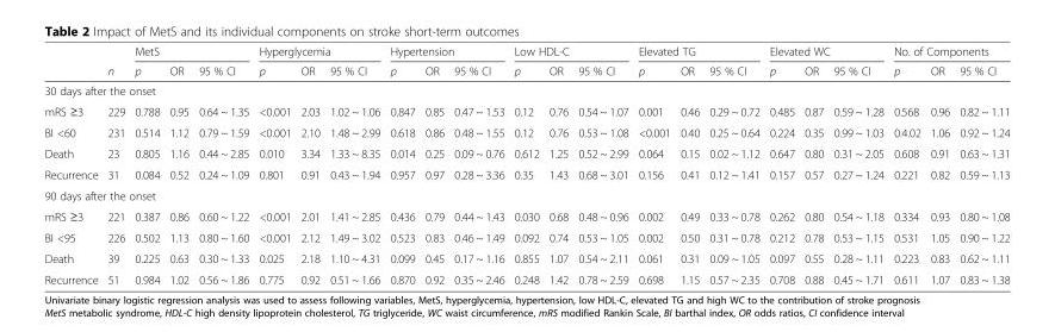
<table><thead><tr><td rowspan="2"></td><td rowspan="2">n</td><td colspan="3">MetS</td><td colspan="3">Hyperglycemia</td><td colspan="3">Hypertension</td><td colspan="3">Low HDL-C</td><td colspan="3">Elevated TG</td><td colspan="3">Elevated WC</td><td colspan="3">No. of Components</td></tr><tr><td>p</td><td>OR</td><td>95 % CI</td><td>p</td><td>OR</td><td>95 % CI</td><td>p</td><td>OR</td><td>95 % CI</td><td>p</td><td>OR</td><td>95 % CI</td><td>p</td><td>OR</td><td>95 % CI</td><td>p</td><td>OR</td><td>95 % CI</td><td>p</td><td>OR</td><td>95 % CI</td></tr></thead><tbody><tr><td colspan="23">30 days after the onset</td></tr><tr><td>mRS ≥3</td><td>229</td><td>0.788</td><td>0.95</td><td>0.64 ~ 1.35</td><td>&lt;0.001</td><td>2.03</td><td>1.02 ~ 1.06</td><td>0.847</td><td>0.85</td><td>0.47 ~ 1.53</td><td>0.12</td><td>0.76</td><td>0.54 ~ 1.07</td><td>0.001</td><td>0.46</td><td>0.29 ~ 0.72</td><td>0.485</td><td>0.87</td><td>0.59 ~ 1.28</td><td>0.568</td><td>0.96</td><td>0.82 ~ 1.11</td></tr><tr><td>BI &lt;60</td><td>231</td><td>0.514</td><td>1.12</td><td>0.79 ~ 1.59</td><td>&lt;0.001</td><td>2.10</td><td>1.48 ~ 2.99</td><td>0.618</td><td>0.86</td><td>0.48 ~ 1.55</td><td>0.12</td><td>0.76</td><td>0.53 ~ 1.08</td><td>&lt;0.001</td><td>0.40</td><td>0.25 ~ 0.64</td><td>0.224</td><td>0.35</td><td>0.99 ~ 1.03</td><td>0.4.02</td><td>1.06</td><td>0.92 ~ 1.24</td></tr><tr><td>Death</td><td>23</td><td>0.805</td><td>1.16</td><td>0.44 ~ 2.85</td><td>0.010</td><td>3.34</td><td>1.33 ~ 8.35</td><td>0.014</td><td>0.25</td><td>0.09 ~ 0.76</td><td>0.612</td><td>1.25</td><td>0.52 ~ 2.99</td><td>0.064</td><td>0.15</td><td>0.02 ~ 1.12</td><td>0.647</td><td>0.80</td><td>0.31 ~ 2.05</td><td>0.608</td><td>0.91</td><td>0.63 ~ 1.31</td></tr><tr><td>Recurrence</td><td>31</td><td>0.084</td><td>0.52</td><td>0.24 ~ 1.09</td><td>0.801</td><td>0.91</td><td>0.43 ~ 1.94</td><td>0.957</td><td>0.97</td><td>0.28 ~ 3.36</td><td>0.35</td><td>1.43</td><td>0.68 ~ 3.01</td><td>0.156</td><td>0.41</td><td>0.12 ~ 1.41</td><td>0.157</td><td>0.57</td><td>0.27 ~ 1.24</td><td>0.221</td><td>0.82</td><td>0.59 ~ 1.13</td></tr><tr><td colspan="23">90 days after the onset</td></tr><tr><td>mRS ≥3</td><td>221</td><td>0.387</td><td>0.86</td><td>0.60 ~ 1.22</td><td>&lt;0.001</td><td>2.01</td><td>1.41 ~ 2.85</td><td>0.436</td><td>0.79</td><td>0.44 ~ 1.43</td><td>0.030</td><td>0.68</td><td>0.48 ~ 0.96</td><td>0.002</td><td>0.49</td><td>0.33 ~ 0.78</td><td>0.262</td><td>0.80</td><td>0.54 ~ 1.18</td><td>0.334</td><td>0.93</td><td>0.80 ~ 1.08</td></tr><tr><td>BI &lt;95</td><td>226</td><td>0.502</td><td>1.13</td><td>0.80 ~ 1.60</td><td>&lt;0.001</td><td>2.12</td><td>1.49 ~ 3.02</td><td>0.523</td><td>0.83</td><td>0.46 ~ 1.49</td><td>0.092</td><td>0.74</td><td>0.53 ~ 1.05</td><td>0.002</td><td>0.50</td><td>0.31 ~ 0.78</td><td>0.212</td><td>0.78</td><td>0.53 ~ 1.15</td><td>0.531</td><td>1.05</td><td>0.90 ~ 1.22</td></tr><tr><td>Death</td><td>39</td><td>0.225</td><td>0.63</td><td>0.30 ~ 1.33</td><td>0.025</td><td>2.18</td><td>1.10 ~ 4.31</td><td>0.099</td><td>0.45</td><td>0.17 ~ 1.16</td><td>0.855</td><td>1.07</td><td>0.54 ~ 2.11</td><td>0.061</td><td>0.31</td><td>0.09 ~ 1.05</td><td>0.097</td><td>0.55</td><td>0.28 ~ 1.11</td><td>0.223</td><td>0.83</td><td>0.62 ~ 1.11</td></tr><tr><td>Recurrence</td><td>51</td><td>0.984</td><td>1.02</td><td>0.56 ~ 1.86</td><td>0.775</td><td>0.92</td><td>0.51 ~ 1.66</td><td>0.870</td><td>0.92</td><td>0.35 ~ 2.46</td><td>0.248</td><td>1.42</td><td>0.78 ~ 2.59</td><td>0.698</td><td>1.15</td><td>0.57 ~ 2.35</td><td>0.708</td><td>0.88</td><td>0.45 ~ 1.71</td><td>0.611</td><td>1.07</td><td>0.83 ~ 1.38</td></tr></tbody></table>